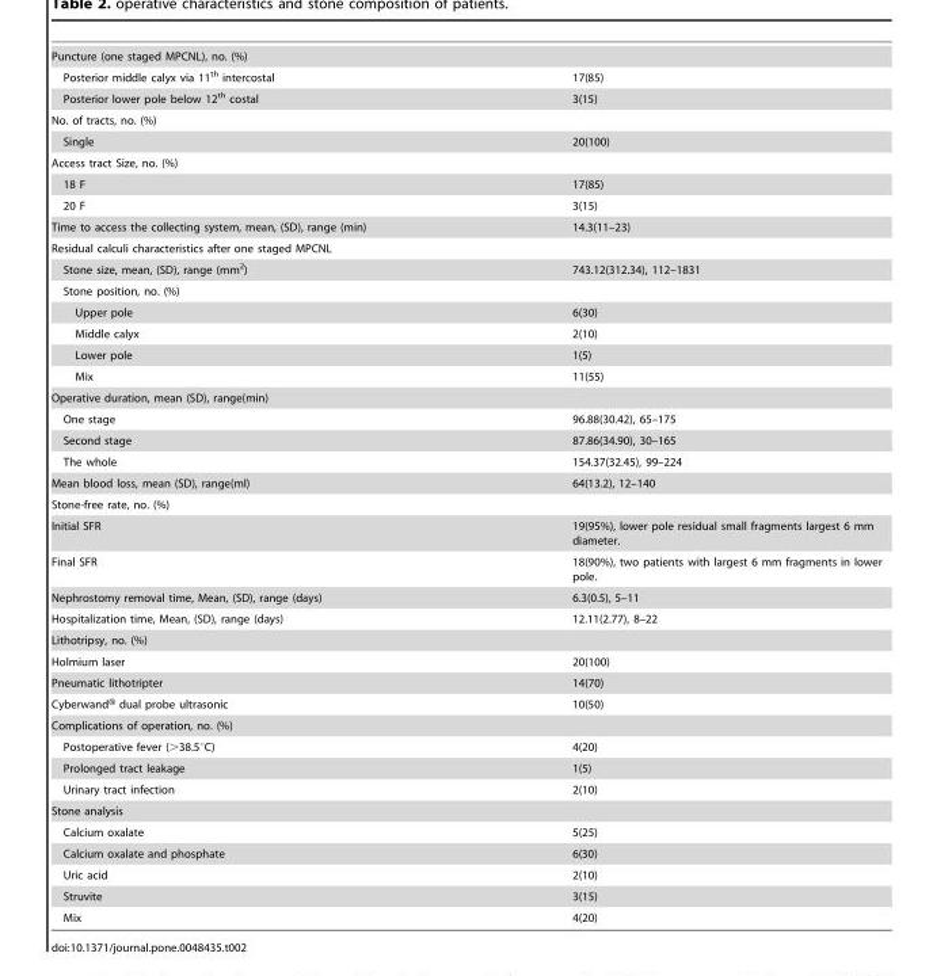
<table><tbody><tr><td colspan="2">Puncture (one staged MPCNL), no. (%)</td></tr><tr><td>Posterior middle calyx via 11<sup>th</sup> intercostal</td><td>17(85)</td></tr><tr><td>Posterior lower pole below 12<sup>th</sup> costal</td><td>3(15)</td></tr><tr><td colspan="2">No. of tracts, no. (%)</td></tr><tr><td>Single</td><td>20(100)</td></tr><tr><td colspan="2">Access tract Size, no. (%)</td></tr><tr><td>18 F</td><td>17(85)</td></tr><tr><td>20 F</td><td>3(15)</td></tr><tr><td>Time to access the collecting system, mean, (SD), range (min)</td><td>14.3(11–23)</td></tr><tr><td colspan="2">Residual calculi characteristics after one staged MPCNL</td></tr><tr><td>Stone size, mean, (SD), range (mm<sup>2</sup>)</td><td>743.12(312.34), 112–1831</td></tr><tr><td colspan="2">Stone position, no. (%)</td></tr><tr><td>Upper pole</td><td>6(30)</td></tr><tr><td>Middle calyx</td><td>2(10)</td></tr><tr><td>Lower pole</td><td>1(5)</td></tr><tr><td>Mix</td><td>11(55)</td></tr><tr><td colspan="2">Operative duration, mean (SD), range(min)</td></tr><tr><td>One stage</td><td>96.88(30.42), 65–175</td></tr><tr><td>Second stage</td><td>87.86(34.90), 30–165</td></tr><tr><td>The whole</td><td>154.37(32.45), 99–224</td></tr><tr><td>Mean blood loss, mean (SD), range(ml)</td><td>64(13.2), 12–140</td></tr><tr><td colspan="2">Stone-free rate, no. (%)</td></tr><tr><td>Initial SFR</td><td>19(95%), lower pole residual small fragments largest 6 mm diameter.</td></tr><tr><td>Final SFR</td><td>18(90%), two patients with largest 6 mm fragments in lower pole.</td></tr><tr><td>Nephrostomy removal time, Mean, (SD), range (days)</td><td>6.3(0.5), 5–11</td></tr><tr><td>Hospitalization time, Mean, (SD), range (days)</td><td>12.11(2.77), 8–22</td></tr><tr><td colspan="2">Lithotripsy, no. (%)</td></tr><tr><td>Holmium laser</td><td>20(100)</td></tr><tr><td>Pneumatic lithotripter</td><td>14(70)</td></tr><tr><td>Cyberwand® dual probe ultrasonic</td><td>10(50)</td></tr><tr><td colspan="2">Complications of operation, no. (%)</td></tr><tr><td>Postoperative fever (&gt;38.5°C)</td><td>4(20)</td></tr><tr><td>Prolonged tract leakage</td><td>1(5)</td></tr><tr><td>Urinary tract infection</td><td>2(10)</td></tr><tr><td colspan="2">Stone analysis</td></tr><tr><td>Calcium oxalate</td><td>5(25)</td></tr><tr><td>Calcium oxalate and phosphate</td><td>6(30)</td></tr><tr><td>Uric acid</td><td>2(10)</td></tr><tr><td>Struvite</td><td>3(15)</td></tr><tr><td>Mix</td><td>4(20)</td></tr></tbody></table>